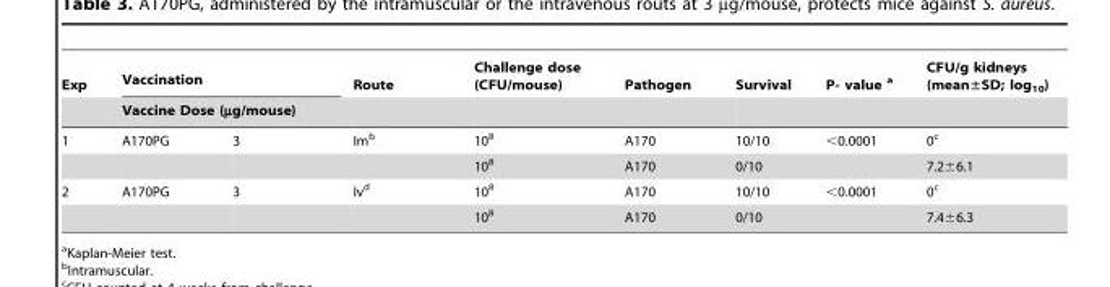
<table><thead><tr><td rowspan="3">Exp 1</td><td rowspan="2" colspan="2">Vaccination Vaccine Dose (µg/mouse)</td><td rowspan="3">Route Im<sup>b</sup></td><td rowspan="3">Challenge dose (CFU/mouse) 10<sup>8</sup></td><td rowspan="3">Pathogen A170</td><td rowspan="3">Survival 10/10</td><td rowspan="3">P- value a &lt;0.0001</td><td rowspan="3">CFU/g kidneys (mean±SD; log<sub>10</sub>) 0<sup>c</sup></td></tr><tr></tr><tr><td>A170PG</td><td>3</td></tr></thead><tbody><tr><td></td><td></td><td></td><td></td><td>10<sup>8</sup></td><td>A170</td><td>0/10</td><td></td><td>7.2±6.1</td></tr><tr><td rowspan="2">2</td><td>A170PG</td><td>3</td><td>Iv<sup>d</sup></td><td>10<sup>8</sup></td><td>A170</td><td>10/10</td><td>&lt;0.0001</td><td>0<sup>c</sup></td></tr><tr><td></td><td></td><td></td><td>10<sup>8</sup></td><td>A170</td><td>0/10</td><td></td><td>7.4±6.3</td></tr></tbody></table>